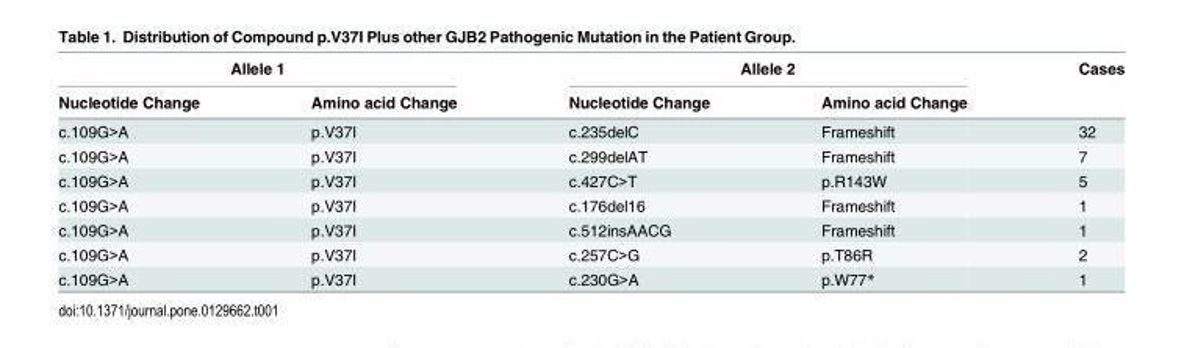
<table><thead><tr><td colspan="2">Allele 1</td><td colspan="2">Allele 2</td><td rowspan="2">Cases</td></tr><tr><td>Nucleotide Change</td><td>Amino acid Change</td><td>Nucleotide Change</td><td>Amino acid Change</td></tr></thead><tbody><tr><td>c.109G&gt;A</td><td>p.V37I</td><td>c.235delC</td><td>Frameshift</td><td>32</td></tr><tr><td>c.109G&gt;A</td><td>p.V37I</td><td>c.299delAT</td><td>Frameshift</td><td>7</td></tr><tr><td>c.109G&gt;A</td><td>p.V37I</td><td>c.427C&gt;T</td><td>p.R143W</td><td>5</td></tr><tr><td>c.109G&gt;A</td><td>p.V37I</td><td>c.176del16</td><td>Frameshift</td><td>1</td></tr><tr><td>c.109G&gt;A</td><td>p.V37I</td><td>c.512insAACG</td><td>Frameshift</td><td>1</td></tr><tr><td>c.109G&gt;A</td><td>p.V37I</td><td>c.257C&gt;G</td><td>p.T86R</td><td>2</td></tr><tr><td>c.109G&gt;A</td><td>p.V37I</td><td>c.230G&gt;A</td><td>p.W77*</td><td>1</td></tr></tbody></table>